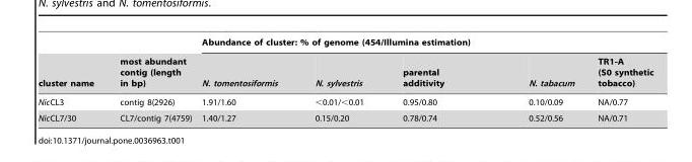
<table><thead><tr><td rowspan="2">cluster name</td><td rowspan="2">most abundant contig (length in bp)</td><td colspan="5">Abundance of cluster: % of genome (454/Illumina estimation)</td></tr><tr><td>N. tomentosiformis</td><td>N. sylvestris</td><td>parental additivity</td><td>N. tabacum</td><td>TR1-A (S0 synthetic tobacco)</td></tr></thead><tbody><tr><td>NicCL3</td><td>contig 8(2926)</td><td>1.91/1.60</td><td>&lt;0.01/&lt;0.01</td><td>0.95/0.80</td><td>0.10/0.09</td><td>NA/0.77</td></tr><tr><td>NicCL7/30</td><td>CL7/contig 7(4759)</td><td>1.40/1.27</td><td>0.15/0.20</td><td>0.78/0.74</td><td>0.52/0.56</td><td>NA/0.71</td></tr></tbody></table>